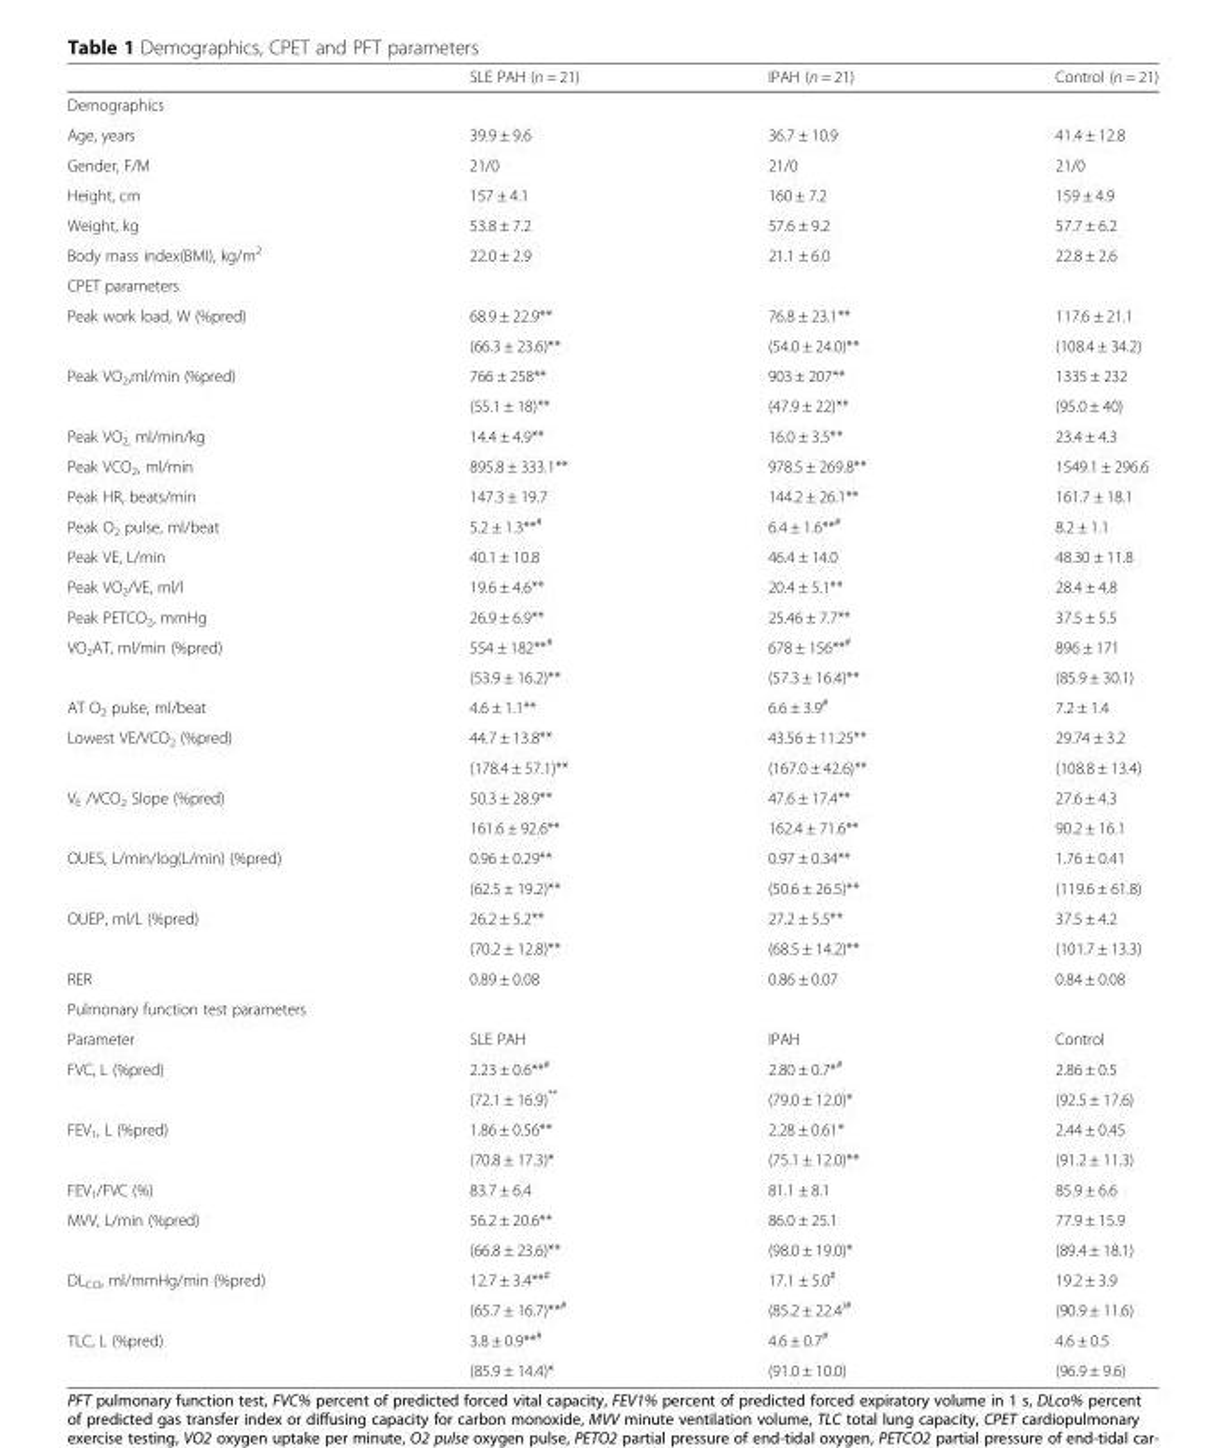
<table><thead><tr><td></td><td>SLE PAH (n = 21)</td><td>IPAH (n = 21)</td><td>Control (n = 21)</td></tr></thead><tbody><tr><td colspan="4">Demographics</td></tr><tr><td>Age, years</td><td>39.9 ± 9.6</td><td>36.7 ± 10.9</td><td>41.4 ± 12.8</td></tr><tr><td>Gender, F/M</td><td>21/0</td><td>21/0</td><td>21/0</td></tr><tr><td>Height, cm</td><td>157 ± 4.1</td><td>160 ± 7.2</td><td>159 ± 4.9</td></tr><tr><td>Weight, kg</td><td>53.8 ± 7.2</td><td>57.6 ± 9.2</td><td>57.7 ± 6.2</td></tr><tr><td>Body mass index(BMI), kg/m<sup>2</sup></td><td>22.0 ± 2.9</td><td>21.1 ± 6.0</td><td>22.8 ± 2.6</td></tr><tr><td colspan="4">CPET parameters</td></tr><tr><td rowspan="2">Peak work load, W (%pred)</td><td>68.9 ± 22.9**</td><td>76.8 ± 23.1**</td><td>117.6 ± 21.1</td></tr><tr><td>(66.3 ± 23.6)**</td><td>(54.0 ± 24.0)**</td><td>(108.4 ± 34.2)</td></tr><tr><td rowspan="2">Peak VO<sub>2</sub>,ml/min (%pred)</td><td>766 ± 258**</td><td>903 ± 207**</td><td>1335 ± 232</td></tr><tr><td>(55.1 ± 18)**</td><td>(47.9 ± 22)**</td><td>(95.0 ± 40)</td></tr><tr><td>Peak VO<sub>2,</sub> ml/min/kg</td><td>14.4 ± 4.9**</td><td>16.0 ± 3.5**</td><td>23.4 ± 4.3</td></tr><tr><td>Peak VCO<sub>2</sub>, ml/min</td><td>895.8 ± 333.1**</td><td>978.5 ± 269.8**</td><td>1549.1 ± 296.6</td></tr><tr><td>Peak HR, beats/min</td><td>147.3 ± 19.7</td><td>144.2 ± 26.1**</td><td>161.7 ± 18.1</td></tr><tr><td>Peak O<sub>2</sub> pulse, ml/beat</td><td>5.2 ± 1.3**<sup>#</sup></td><td>6.4 ± 1.6**<sup>#</sup></td><td>8.2 ± 1.1</td></tr><tr><td>Peak VE, L/min</td><td>40.1 ± 10.8</td><td>46.4 ± 14.0</td><td>48.30 ± 11.8</td></tr><tr><td>Peak VO<sub>2</sub>/VE, ml/l</td><td>19.6 ± 4.6**</td><td>20.4 ± 5.1**</td><td>28.4 ± 4.8</td></tr><tr><td>Peak PETCO<sub>2</sub>, mmHg</td><td>26.9 ± 6.9**</td><td>25.46 ± 7.7**</td><td>37.5 ± 5.5</td></tr><tr><td rowspan="2">VO<sub>2</sub>AT, ml/min (%pred)</td><td>554 ± 182**<sup>#</sup></td><td>678 ± 156**<sup>#</sup></td><td>896 ± 171</td></tr><tr><td>(53.9 ± 16.2)**</td><td>(57.3 ± 16.4)**</td><td>(85.9 ± 30.1)</td></tr><tr><td>AT O<sub>2</sub> pulse, ml/beat</td><td>4.6 ± 1.1**</td><td>6.6 ± 3.9<sup>#</sup></td><td>7.2 ± 1.4</td></tr><tr><td rowspan="2">Lowest VE/VCO<sub>2</sub> (%pred)</td><td>44.7 ± 13.8**</td><td>43.56 ± 11.25**</td><td>29.74 ± 3.2</td></tr><tr><td>(178.4 ± 57.1)**</td><td>(167.0 ± 42.6)**</td><td>(108.8 ± 13.4)</td></tr><tr><td rowspan="2">V<sub>E</sub> /VCO<sub>2</sub> Slope (%pred)</td><td>50.3 ± 28.9**</td><td>47.6 ± 17.4**</td><td>27.6 ± 4.3</td></tr><tr><td>161.6 ± 92.6**</td><td>162.4 ± 71.6**</td><td>90.2 ± 16.1</td></tr><tr><td rowspan="2">OUES, L/min/log(L/min) (%pred)</td><td>0.96 ± 0.29**</td><td>0.97 ± 0.34**</td><td>1.76 ± 0.41</td></tr><tr><td>(62.5 ± 19.2)**</td><td>(50.6 ± 26.5)**</td><td>(119.6 ± 61.8)</td></tr><tr><td rowspan="2">OUEP, ml/L (%pred)</td><td>26.2 ± 5.2**</td><td>27.2 ± 5.5**</td><td>37.5 ± 4.2</td></tr><tr><td>(70.2 ± 12.8)**</td><td>(68.5 ± 14.2)**</td><td>(101.7 ± 13.3)</td></tr><tr><td>RER</td><td>0.89 ± 0.08</td><td>0.86 ± 0.07</td><td>0.84 ± 0.08</td></tr><tr><td colspan="4">Pulmonary function test parameters</td></tr><tr><td>Parameter</td><td>SLE PAH</td><td>IPAH</td><td>Control</td></tr><tr><td rowspan="2">FVC, L (%pred)</td><td>2.23 ± 0.6**<sup>#</sup></td><td>2.80 ± 0.7*<sup>#</sup></td><td>2.86 ± 0.5</td></tr><tr><td>(72.1 ± 16.9)**</td><td>(79.0 ± 12.0)*</td><td>(92.5 ± 17.6)</td></tr><tr><td rowspan="2">FEV<sub>1</sub>, L (%pred)</td><td>1.86 ± 0.56**</td><td>2.28 ± 0.61*</td><td>2.44 ± 0.45</td></tr><tr><td>(70.8 ± 17.3)*</td><td>(75.1 ± 12.0)**</td><td>(91.2 ± 11.3)</td></tr><tr><td>FEV<sub>1</sub>/FVC (%)</td><td>83.7 ± 6.4</td><td>81.1 ± 8.1</td><td>85.9 ± 6.6</td></tr><tr><td rowspan="2">MVV, L/min (%pred)</td><td>56.2 ± 20.6**</td><td>86.0 ± 25.1</td><td>77.9 ± 15.9</td></tr><tr><td>(66.8 ± 23.6)**</td><td>(98.0 ± 19.0)*</td><td>(89.4 ± 18.1)</td></tr><tr><td rowspan="2">DL<sub>CO</sub>, ml/mmHg/min (%pred)</td><td>12.7 ± 3.4**<sup>#</sup></td><td>17.1 ± 5.0<sup>#</sup></td><td>19.2 ± 3.9</td></tr><tr><td>(65.7 ± 16.7)**<sup>#</sup></td><td>(85.2 ± 22.4<sup>)#</sup></td><td>(90.9 ± 11.6)</td></tr><tr><td rowspan="2">TLC, L (%pred)</td><td>3.8 ± 0.9**<sup>#</sup></td><td>4.6 ± 0.7<sup>#</sup></td><td>4.6 ± 0.5</td></tr><tr><td>(85.9 ± 14.4)*</td><td>(91.0 ± 10.0)</td><td>(96.9 ± 9.6)</td></tr></tbody></table>